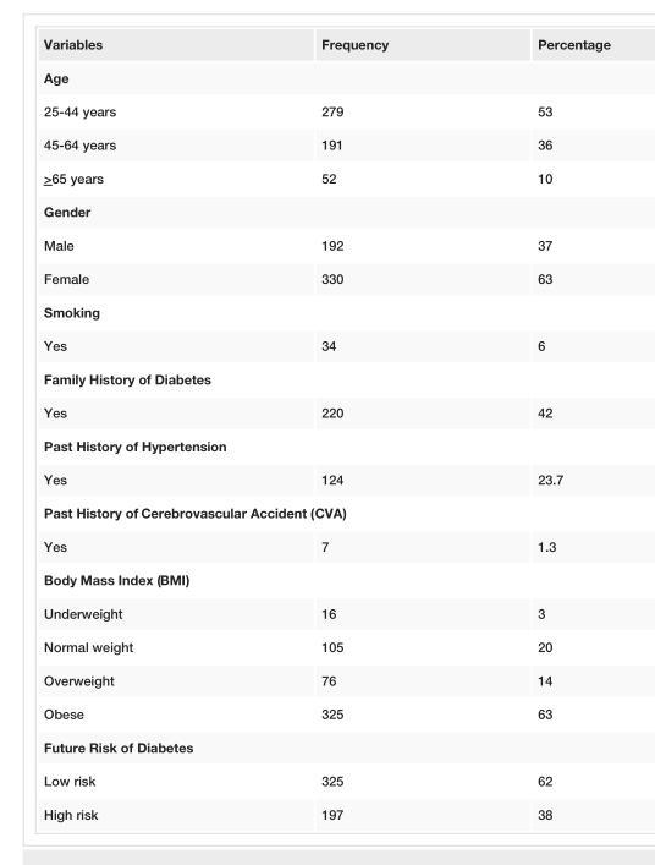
<table><tbody><tr><td>Variables</td><td>Frequency</td><td>Percentage</td></tr><tr><td colspan="3">Age</td></tr><tr><td>25-44 years</td><td>279</td><td>53</td></tr><tr><td>45-64 years</td><td>191</td><td>36</td></tr><tr><td>&gt;65 years</td><td>52</td><td>10</td></tr><tr><td colspan="3">Gender</td></tr><tr><td>Male</td><td>192</td><td>37</td></tr><tr><td>Female</td><td>330</td><td>63</td></tr><tr><td colspan="3">Smoking</td></tr><tr><td>Yes</td><td>34</td><td>6</td></tr><tr><td colspan="3">Family History of Diabetes</td></tr><tr><td>Yes</td><td>220</td><td>42</td></tr><tr><td colspan="3">Past History of Hypertension</td></tr><tr><td>Yes</td><td>124</td><td>23.7</td></tr><tr><td colspan="3">Past History of Cerebrovascular Accident (CVA)</td></tr><tr><td>Yes</td><td>7</td><td>1.3</td></tr><tr><td colspan="3">Body Mass Index (BMI)</td></tr><tr><td>Underweight</td><td>16</td><td>3</td></tr><tr><td>Normal weight</td><td>105</td><td>20</td></tr><tr><td>Overweight</td><td>76</td><td>14</td></tr><tr><td>Obese</td><td>325</td><td>63</td></tr><tr><td colspan="3">Future Risk of Diabetes</td></tr><tr><td>Low risk</td><td>325</td><td>62</td></tr><tr><td>High risk</td><td>197</td><td>38</td></tr></tbody></table>